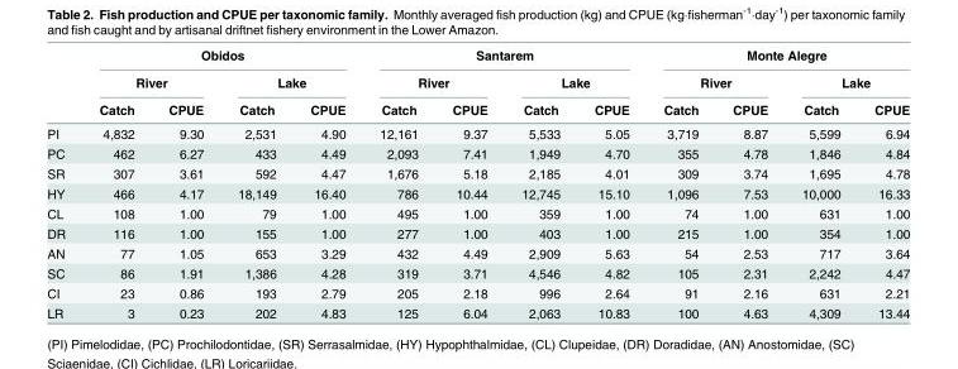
<table><thead><tr><td rowspan="3"></td><td colspan="4">Obidos</td><td colspan="4">Santarem</td><td colspan="4">Monte Alegre</td></tr><tr><td colspan="2">River</td><td colspan="2">Lake</td><td colspan="2">River</td><td colspan="2">Lake</td><td colspan="2">River</td><td colspan="2">Lake</td></tr><tr><td>Catch</td><td>CPUE</td><td>Catch</td><td>CPUE</td><td>Catch</td><td>CPUE</td><td>Catch</td><td>CPUE</td><td>Catch</td><td>CPUE</td><td>Catch</td><td>CPUE</td></tr></thead><tbody><tr><td>PI</td><td>4,832</td><td>9.30</td><td>2,531</td><td>4.90</td><td>12,161</td><td>9.37</td><td>5,533</td><td>5.05</td><td>3,719</td><td>8.87</td><td>5,599</td><td>6.94</td></tr><tr><td>PC</td><td>462</td><td>6.27</td><td>433</td><td>4.49</td><td>2,093</td><td>7.41</td><td>1,949</td><td>4.70</td><td>355</td><td>4.78</td><td>1,846</td><td>4.84</td></tr><tr><td>SR</td><td>307</td><td>3.61</td><td>592</td><td>4.47</td><td>1,676</td><td>5.18</td><td>2,185</td><td>4.01</td><td>309</td><td>3.74</td><td>1,695</td><td>4.78</td></tr><tr><td>HY</td><td>466</td><td>4.17</td><td>18,149</td><td>16.40</td><td>786</td><td>10.44</td><td>12,745</td><td>15.10</td><td>1,096</td><td>7.53</td><td>10,000</td><td>16.33</td></tr><tr><td>CL</td><td>108</td><td>1.00</td><td>79</td><td>1.00</td><td>495</td><td>1.00</td><td>359</td><td>1.00</td><td>74</td><td>1.00</td><td>631</td><td>1.00</td></tr><tr><td>DR</td><td>116</td><td>1.00</td><td>155</td><td>1.00</td><td>277</td><td>1.00</td><td>403</td><td>1.00</td><td>215</td><td>1.00</td><td>354</td><td>1.00</td></tr><tr><td>AN</td><td>77</td><td>1.05</td><td>653</td><td>3.29</td><td>432</td><td>4.49</td><td>2,909</td><td>5.63</td><td>54</td><td>2.53</td><td>717</td><td>3.64</td></tr><tr><td>SC</td><td>86</td><td>1.91</td><td>1,386</td><td>4.28</td><td>319</td><td>3.71</td><td>4,546</td><td>4.82</td><td>105</td><td>2.31</td><td>2,242</td><td>4.47</td></tr><tr><td>CI</td><td>23</td><td>0.86</td><td>193</td><td>2.79</td><td>205</td><td>2.18</td><td>996</td><td>2.64</td><td>91</td><td>2.16</td><td>631</td><td>2.21</td></tr><tr><td>LR</td><td>3</td><td>0.23</td><td>202</td><td>4.83</td><td>125</td><td>6.04</td><td>2,063</td><td>10.83</td><td>100</td><td>4.63</td><td>4,309</td><td>13.44</td></tr></tbody></table>